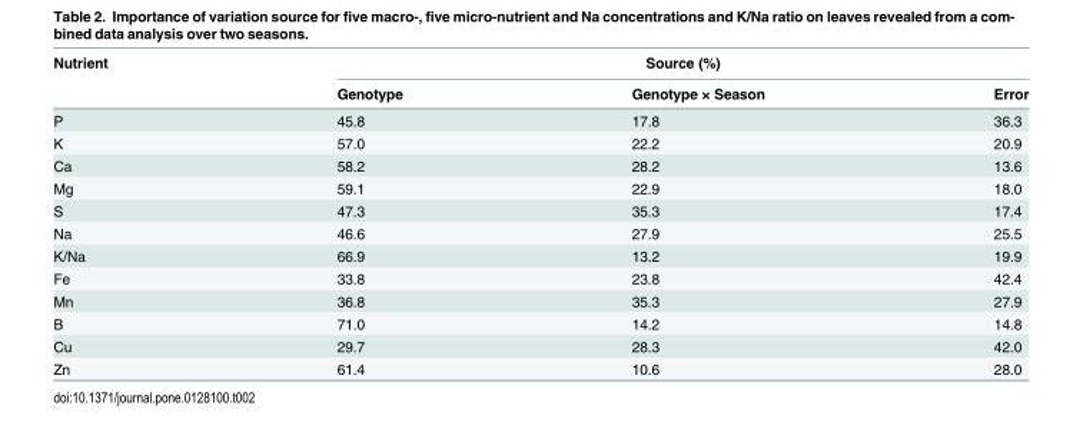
<table><thead><tr><td rowspan="2">Nutrient</td><td colspan="3">Source (%)</td></tr><tr><td>Genotype</td><td>Genotype × Season</td><td>Error</td></tr></thead><tbody><tr><td>P</td><td>45.8</td><td>17.8</td><td>36.3</td></tr><tr><td>K</td><td>57.0</td><td>22.2</td><td>20.9</td></tr><tr><td>Ca</td><td>58.2</td><td>28.2</td><td>13.6</td></tr><tr><td>Mg</td><td>59.1</td><td>22.9</td><td>18.0</td></tr><tr><td>S</td><td>47.3</td><td>35.3</td><td>17.4</td></tr><tr><td>Na</td><td>46.6</td><td>27.9</td><td>25.5</td></tr><tr><td>K/Na</td><td>66.9</td><td>13.2</td><td>19.9</td></tr><tr><td>Fe</td><td>33.8</td><td>23.8</td><td>42.4</td></tr><tr><td>Mn</td><td>36.8</td><td>35.3</td><td>27.9</td></tr><tr><td>B</td><td>71.0</td><td>14.2</td><td>14.8</td></tr><tr><td>Cu</td><td>29.7</td><td>28.3</td><td>42.0</td></tr><tr><td>Zn</td><td>61.4</td><td>10.6</td><td>28.0</td></tr></tbody></table>